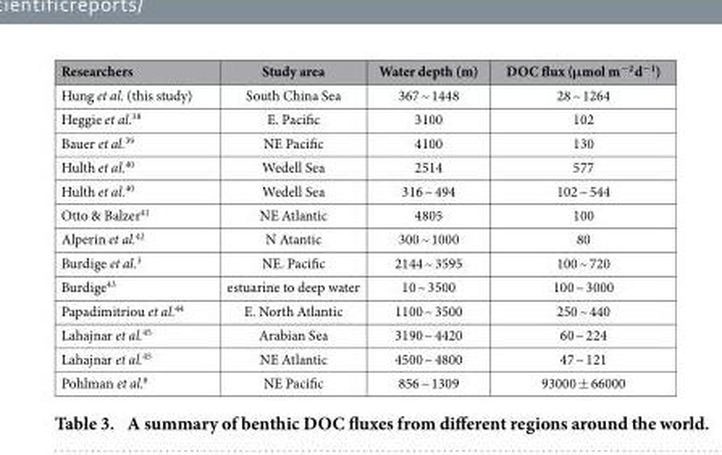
<table><thead><tr><td>Researchers</td><td>Study area</td><td>Water depth (m)</td><td>DOC flux (μmol m<sup>−2</sup> d<sup>−1</sup>)</td></tr></thead><tbody><tr><td>Hung et al. (this study)</td><td>South China Sea</td><td>367 ~ 1448</td><td>28 ~ 1264</td></tr><tr><td>Heggie et al.<sup>38</sup></td><td>E. Pacific</td><td>3100</td><td>102</td></tr><tr><td>Bauer et al.<sup>39</sup></td><td>NE Pacific</td><td>4100</td><td>130</td></tr><tr><td>Hulth et al.<sup>40</sup></td><td>Wedell Sea</td><td>2514</td><td>577</td></tr><tr><td>Hulth et al.<sup>40</sup></td><td>Wedell Sea</td><td>316 ~ 494</td><td>102 ~ 544</td></tr><tr><td>Otto &amp; Balzer<sup>41</sup></td><td>NE Atlantic</td><td>4805</td><td>100</td></tr><tr><td>Alperin et al.<sup>42</sup></td><td>N Atantic</td><td>300 ~ 1000</td><td>80</td></tr><tr><td>Burdige et al.<sup>3</sup></td><td>NE. Pacific</td><td>2144 ~ 3595</td><td>100 ~ 720</td></tr><tr><td>Burdige<sup>43</sup></td><td>estuarine to deep water</td><td>10 ~ 3500</td><td>100 ~ 3000</td></tr><tr><td>Papadimitriou et al.<sup>44</sup></td><td>E. North Atlantic</td><td>1100 ~ 3500</td><td>250 ~ 440</td></tr><tr><td>Lahajnar et al.<sup>45</sup></td><td>Arabian Sea</td><td>3190 ~ 4420</td><td>60 ~ 224</td></tr><tr><td>Lahajnar et al.<sup>45</sup></td><td>NE Atlantic</td><td>4500 ~ 4800</td><td>47 ~ 121</td></tr><tr><td>Pohlman et al.<sup>8</sup></td><td>NE Pacific</td><td>856 ~ 1309</td><td>93000 ± 66000</td></tr></tbody></table>